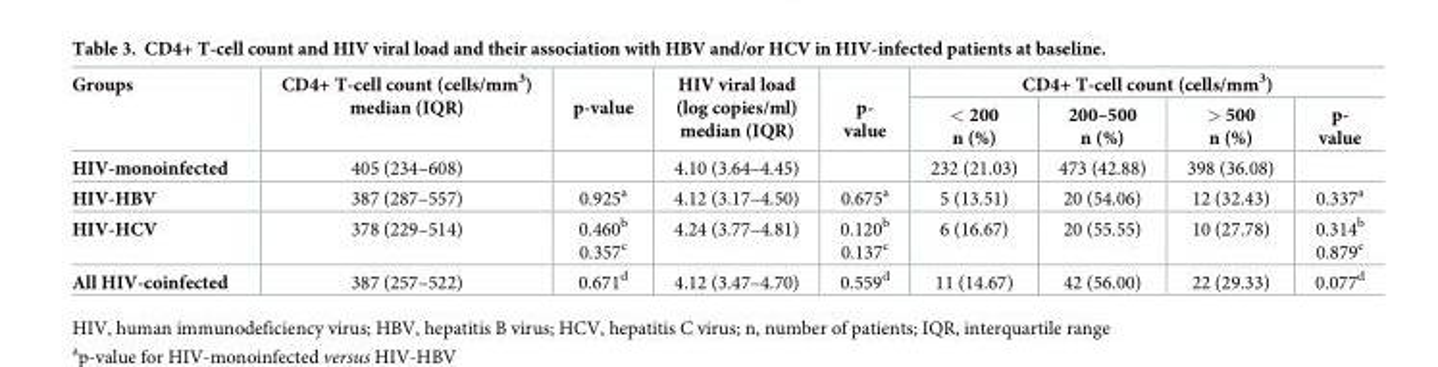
<table><thead><tr><td rowspan="2">Groups</td><td rowspan="2">CD4+ T-cell count (cells/mm<sup>3</sup>) median (IQR)</td><td rowspan="2">p-value</td><td rowspan="2">HIV viral load (log copies/ml) median (IQR)</td><td rowspan="2">p- value</td><td colspan="4">CD4+ T-cell count (cells/mm<sup>3</sup>)</td></tr><tr><td>&lt; 200 n (%)</td><td>200–500 n (%)</td><td>&gt; 500 n (%)</td><td>p- value</td></tr></thead><tbody><tr><td>HIV-monoinfected</td><td>405 (234–608)</td><td></td><td>4.10 (3.64–4.45)</td><td></td><td>232 (21.03)</td><td>473 (42.88)</td><td>398 (36.08)</td><td></td></tr><tr><td>HIV-HBV</td><td>387 (287–557)</td><td>0.925<sup>a</sup></td><td>4.12 (3.17–4.50)</td><td>0.675<sup>a</sup></td><td>5 (13.51)</td><td>20 (54.06)</td><td>12 (32.43)</td><td>0.337<sup>a</sup></td></tr><tr><td>HIV-HCV</td><td>378 (229–514)</td><td>0.460<sup>b</sup> 0.357<sup>c</sup></td><td>4.24 (3.77–4.81)</td><td>0.120<sup>b</sup> 0.137<sup>c</sup></td><td>6 (16.67)</td><td>20 (55.55)</td><td>10 (27.78)</td><td>0.314<sup>b</sup> 0.879<sup>c</sup></td></tr><tr><td>All HIV-coinfected</td><td>387 (257–522)</td><td>0.671<sup>d</sup></td><td>4.12 (3.47–4.70)</td><td>0.559<sup>d</sup></td><td>11 (14.67)</td><td>42 (56.00)</td><td>22 (29.33)</td><td>0.077<sup>d</sup></td></tr></tbody></table>